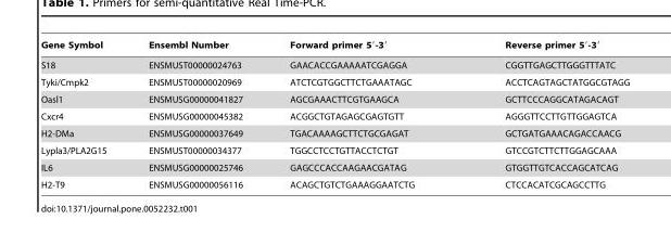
<table><thead><tr><td>Gene Symbol</td><td>Ensembl Number</td><td>Forward primer 5′-3′</td><td>Reverse primer 5′-3′</td></tr></thead><tbody><tr><td>S18</td><td>ENSMUST00000024763</td><td>GAACACCGAAAAATCGAGGA</td><td>CGGTTGAGCTTGGGTTTATC</td></tr><tr><td>Tyki/Cmpk2</td><td>ENSMUST00000020969</td><td>ATCTCGTGGCTTCTGAAATAGC</td><td>ACCTCAGTAGCTATGGCGTAGG</td></tr><tr><td>Oasl1</td><td>ENSMUSG00000041827</td><td>AGCGAAACTTCGTGAAGCA</td><td>GCTTCCCAGGCATAGACAGT</td></tr><tr><td>Cxcr4</td><td>ENSMUSG00000045382</td><td>ACGGCTGTAGAGCGAGTGTT</td><td>AGGGTTCCTTGTTGGAGTCA</td></tr><tr><td>H2-DMa</td><td>ENSMUSG00000037649</td><td>TGACAAAAGCTTCTGCGAGAT</td><td>GCTGATGAAACAGACCAACG</td></tr><tr><td>Lypla3/PLA2G15</td><td>ENSMUST00000034377</td><td>TGGCCTCCTGTTACCTCTGT</td><td>GTCCGTCTTCTTGGAGCAAA</td></tr><tr><td>IL6</td><td>ENSMUSG00000025746</td><td>GAGCCCACCAAGAACGATAG</td><td>GTGGTTGTCACCAGCATCAG</td></tr><tr><td>H2-T9</td><td>ENSMUSG00000056116</td><td>ACAGCTGTCTGAAAGGAATCTG</td><td>CTCCACATCGCAGCCTTG</td></tr></tbody></table>